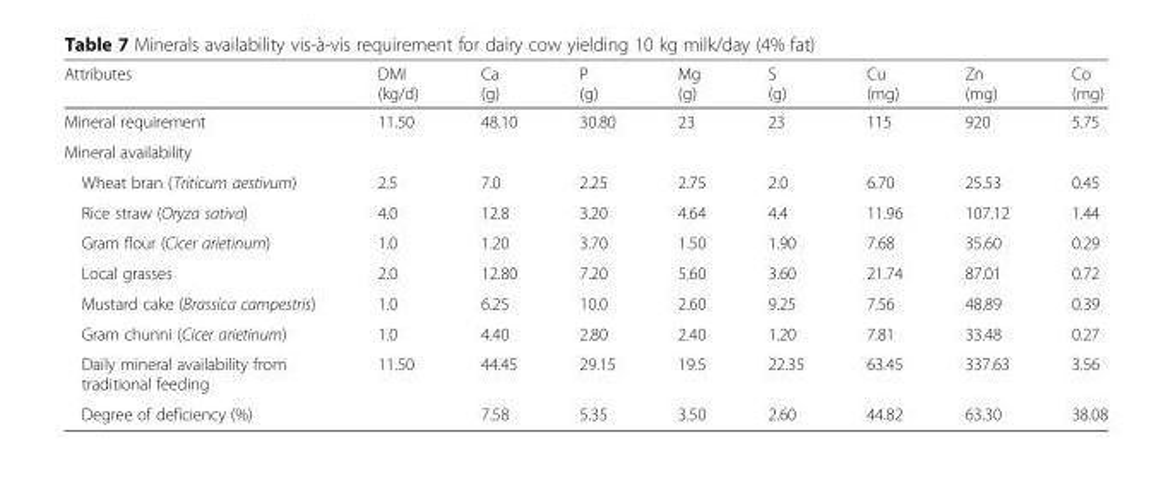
<table><thead><tr><td>Attributes</td><td>DMI (kg/d)</td><td>Ca (g)</td><td>P (g)</td><td>Mg (g)</td><td>S (g)</td><td>Cu (mg)</td><td>Zn (mg)</td><td>Co (mg)</td></tr></thead><tbody><tr><td>Mineral requirement</td><td>11.50</td><td>48.10</td><td>30.80</td><td>23</td><td>23</td><td>115</td><td>920</td><td>5.75</td></tr><tr><td colspan="9">Mineral availability</td></tr><tr><td>Wheat bran (Triticum aestivum)</td><td>2.5</td><td>7.0</td><td>2.25</td><td>2.75</td><td>2.0</td><td>6.70</td><td>25.53</td><td>0.45</td></tr><tr><td>Rice straw (Oryza sativa)</td><td>4.0</td><td>12.8</td><td>3.20</td><td>4.64</td><td>4.4</td><td>11.96</td><td>107.12</td><td>1.44</td></tr><tr><td>Gram flour (Cicer arietinum)</td><td>1.0</td><td>1.20</td><td>3.70</td><td>1.50</td><td>1.90</td><td>7.68</td><td>35.60</td><td>0.29</td></tr><tr><td>Local grasses</td><td>2.0</td><td>12.80</td><td>7.20</td><td>5.60</td><td>3.60</td><td>21.74</td><td>87.01</td><td>0.72</td></tr><tr><td>Mustard cake (Brassica campestris)</td><td>1.0</td><td>6.25</td><td>10.0</td><td>2.60</td><td>9.25</td><td>7.56</td><td>48.89</td><td>0.39</td></tr><tr><td>Gram chunni (Cicer arietinum)</td><td>1.0</td><td>4.40</td><td>2.80</td><td>2.40</td><td>1.20</td><td>7.81</td><td>33.48</td><td>0.27</td></tr><tr><td>Daily mineral availability from traditional feeding</td><td>11.50</td><td>44.45</td><td>29.15</td><td>19.5</td><td>22.35</td><td>63.45</td><td>337.63</td><td>3.56</td></tr><tr><td>Degree of deficiency (%)</td><td></td><td>7.58</td><td>5.35</td><td>3.50</td><td>2.60</td><td>44.82</td><td>63.30</td><td>38.08</td></tr></tbody></table>